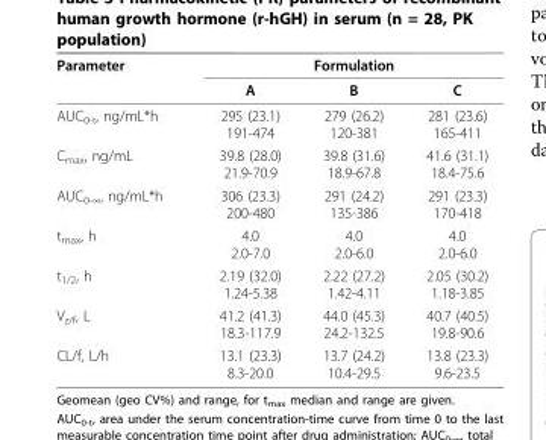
<table><thead><tr><td rowspan="2">Parameter</td><td colspan="3">Formulation</td></tr><tr><td>A</td><td>B</td><td>C</td></tr></thead><tbody><tr><td>AUC<sub>0-t</sub>, ng/mL*h</td><td>295 (23.1) 191-474</td><td>279 (26.2) 120-381</td><td>281 (23.6) 165-411</td></tr><tr><td>C<sub>max</sub>, ng/mL</td><td>39.8 (28.0) 21.9-70.9</td><td>39.8 (31.6) 18.9-67.8</td><td>41.6 (31.1) 18.4-75.6</td></tr><tr><td>AUC<sub>0-∞</sub>, ng/mL*h</td><td>306 (23.3) 200-480</td><td>291 (24.2) 135-386</td><td>291 (23.3) 170-418</td></tr><tr><td>t<sub>max</sub>, h</td><td>4.0 2.0-7.0</td><td>4.0 2.0-6.0</td><td>4.0 2.0-6.0</td></tr><tr><td>t<sub>1/2</sub>, h</td><td>2.19 (32.0) 1.24-5.38</td><td>2.22 (27.2) 1.42-4.11</td><td>2.05 (30.2) 1.18-3.85</td></tr><tr><td>V<sub>z/f</sub>, L</td><td>41.2 (41.3) 18.3-117.9</td><td>44.0 (45.3) 24.2-132.5</td><td>40.7 (40.5) 19.8-90.6</td></tr><tr><td>CL/f, L/h</td><td>13.1 (23.3) 8.3-20.0</td><td>13.7 (24.2) 10.4-29.5</td><td>13.8 (23.3) 9.6-23.5</td></tr></tbody></table>